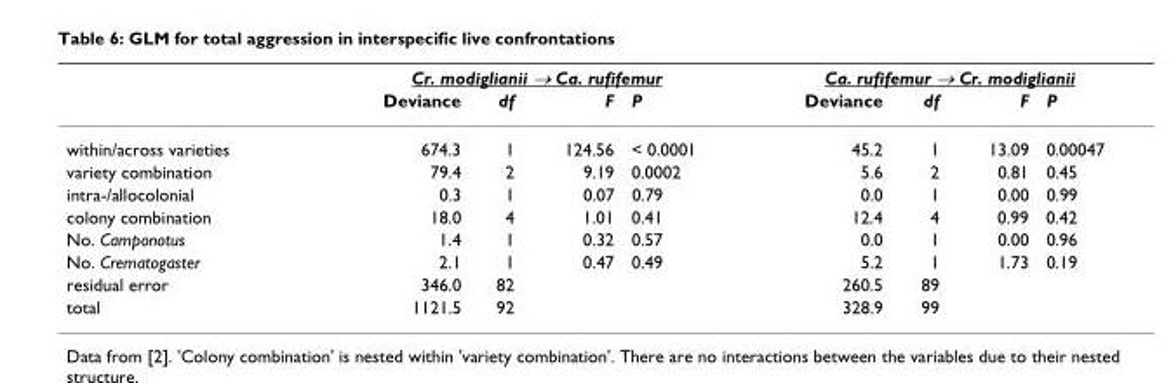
<table><thead><tr><td rowspan="2"></td><td colspan="4">Cr. modiglianii → Ca. rufifemur</td><td colspan="4">Ca. rufifemur → Cr. modiglianii</td></tr><tr><td>Deviance</td><td>df</td><td>F</td><td>P</td><td>Deviance</td><td>df</td><td>F</td><td>P</td></tr></thead><tbody><tr><td>within/across varieties</td><td>674.3</td><td>1</td><td>124.56</td><td>&lt; 0.0001</td><td>45.2</td><td>1</td><td>13.09</td><td>0.00047</td></tr><tr><td>variety combination</td><td>79.4</td><td>2</td><td>9.19</td><td>0.0002</td><td>5.6</td><td>2</td><td>0.81</td><td>0.45</td></tr><tr><td>intra-/allocolonial</td><td>0.3</td><td>1</td><td>0.07</td><td>0.79</td><td>0.0</td><td>1</td><td>0.00</td><td>0.99</td></tr><tr><td>colony combination</td><td>18.0</td><td>4</td><td>1.01</td><td>0.41</td><td>12.4</td><td>4</td><td>0.99</td><td>0.42</td></tr><tr><td>No. Camponotus</td><td>1.4</td><td>1</td><td>0.32</td><td>0.57</td><td>0.0</td><td>1</td><td>0.00</td><td>0.96</td></tr><tr><td>No. Crematogaster</td><td>2.1</td><td>1</td><td>0.47</td><td>0.49</td><td>5.2</td><td>1</td><td>1.73</td><td>0.19</td></tr><tr><td>residual error</td><td>346.0</td><td>82</td><td></td><td></td><td>260.5</td><td>89</td><td></td><td></td></tr><tr><td>total</td><td>1121.5</td><td>92</td><td></td><td></td><td>328.9</td><td>99</td><td></td><td></td></tr></tbody></table>